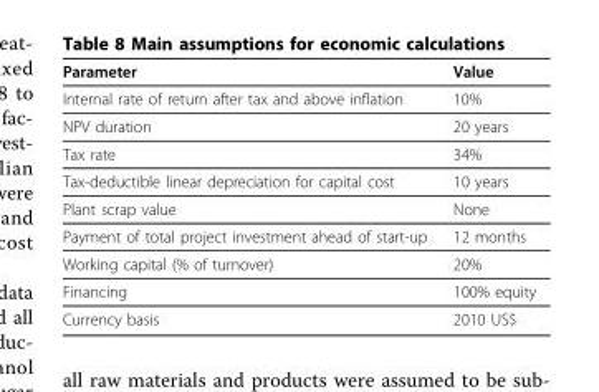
<table><thead><tr><td>Parameter</td><td>Value</td></tr></thead><tbody><tr><td>Internal rate of return after tax and above inflation</td><td>10%</td></tr><tr><td>NPV duration</td><td>20 years</td></tr><tr><td>Tax rate</td><td>34%</td></tr><tr><td>Tax-deductible linear depreciation for capital cost</td><td>10 years</td></tr><tr><td>Plant scrap value</td><td>None</td></tr><tr><td>Payment of total project investment ahead of start-up</td><td>12 months</td></tr><tr><td>Working capital (% of turnover)</td><td>20%</td></tr><tr><td>Financing</td><td>100% equity</td></tr><tr><td>Currency basis</td><td>2010 US$</td></tr></tbody></table>